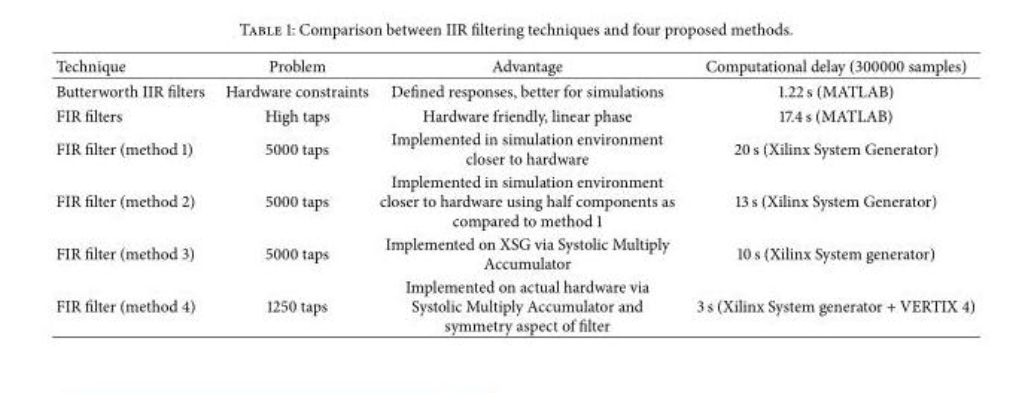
<table><thead><tr><td>Technique</td><td>Problem</td><td>Advantage</td><td>Computational delay (300000 samples)</td></tr></thead><tbody><tr><td>Butterworth IIR filters</td><td>Hardware constraints</td><td>Defined responses, better for simulations</td><td>1.22 s (MATLAB)</td></tr><tr><td>FIR filters</td><td>High taps</td><td>Hardware friendly, linear phase</td><td>17.4 s (MATLAB)</td></tr><tr><td>FIR filter (method 1)</td><td>5000 taps</td><td>Implemented in simulation environment closer to hardware</td><td>20 s (Xilinx System Generator)</td></tr><tr><td>FIR filter (method 2)</td><td>5000 taps</td><td>Implemented in simulation environment closer to hardware using half components as compared to method 1</td><td>13 s (Xilinx System Generator)</td></tr><tr><td>FIR filter (method 3)</td><td>5000 taps</td><td>Implemented on XSG via Systolic Multiply Accumulator</td><td>10 s (Xilinx System generator)</td></tr><tr><td>FIR filter (method 4)</td><td>1250 taps</td><td>Implemented on actual hardware via Systolic Multiply Accumulator and symmetry aspect of filter</td><td>3 s (Xilinx System generator + VERTIX 4)</td></tr></tbody></table>